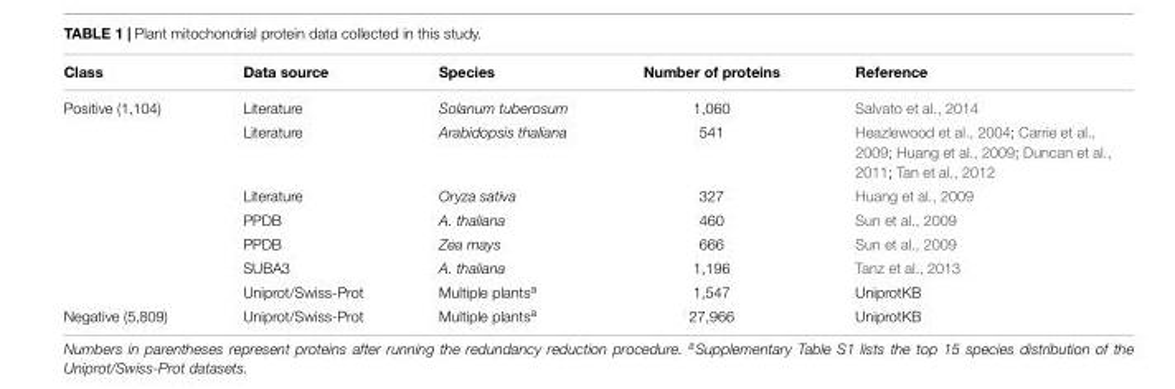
<table><thead><tr><td>Class</td><td>Data source</td><td>Species</td><td>Number of proteins</td><td>Reference</td></tr></thead><tbody><tr><td rowspan="7">Positive (1,104)</td><td>Literature</td><td>Solanum tuberosum</td><td>1,060</td><td>Salvato et al., 2014</td></tr><tr><td>Literature</td><td>Arabidopsis thaliana</td><td>541</td><td>Heazlewood et al., 2004; Carrie et al., 2009; Huang et al., 2009; Duncan et al., 2011; Tan et al., 2012</td></tr><tr><td>Literature</td><td>Oryza sativa</td><td>327</td><td>Huang et al., 2009</td></tr><tr><td>PPDB</td><td>A. thaliana</td><td>460</td><td>Sun et al., 2009</td></tr><tr><td>PPDB</td><td>Zea mays</td><td>666</td><td>Sun et al., 2009</td></tr><tr><td>SUBA3</td><td>A. thaliana</td><td>1,196</td><td>Tanz et al., 2013</td></tr><tr><td>Uniprot/Swiss-Prot</td><td>Multiple plants<sup>a</sup></td><td>1,547</td><td>UniprotKB</td></tr><tr><td>Negative (5,809)</td><td>Uniprot/Swiss-Prot</td><td>Multiple plants<sup>a</sup></td><td>27,966</td><td>UniprotKB</td></tr></tbody></table>